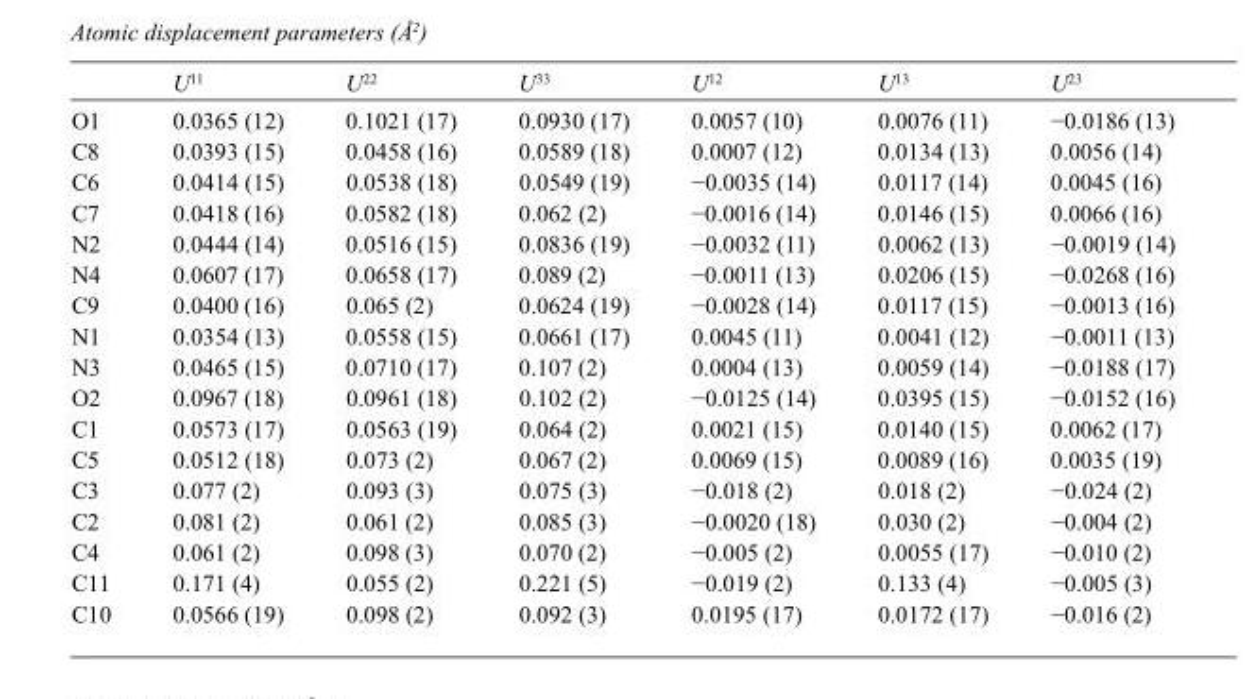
<table><thead><tr><td></td><td>U<sup>11</sup></td><td>U<sup>22</sup></td><td>U<sup>33</sup></td><td>U<sup>12</sup></td><td>U<sup>13</sup></td><td>U<sup>23</sup></td></tr></thead><tbody><tr><td>O1</td><td>0.0365 (12)</td><td>0.1021 (17)</td><td>0.0930 (17)</td><td>0.0057 (10)</td><td>0.0076 (11)</td><td>−0.0186 (13)</td></tr><tr><td>C8</td><td>0.0393 (15)</td><td>0.0458 (16)</td><td>0.0589 (18)</td><td>0.0007 (12)</td><td>0.0134 (13)</td><td>0.0056 (14)</td></tr><tr><td>C6</td><td>0.0414 (15)</td><td>0.0538 (18)</td><td>0.0549 (19)</td><td>−0.0035 (14)</td><td>0.0117 (14)</td><td>0.0045 (16)</td></tr><tr><td>C7</td><td>0.0418 (16)</td><td>0.0582 (18)</td><td>0.062 (2)</td><td>−0.0016 (14)</td><td>0.0146 (15)</td><td>0.0066 (16)</td></tr><tr><td>N2</td><td>0.0444 (14)</td><td>0.0516 (15)</td><td>0.0836 (19)</td><td>−0.0032 (11)</td><td>0.0062 (13)</td><td>−0.0019 (14)</td></tr><tr><td>N4</td><td>0.0607 (17)</td><td>0.0658 (17)</td><td>0.089 (2)</td><td>−0.0011 (13)</td><td>0.0206 (15)</td><td>−0.0268 (16)</td></tr><tr><td>C9</td><td>0.0400 (16)</td><td>0.065 (2)</td><td>0.0624 (19)</td><td>−0.0028 (14)</td><td>0.0117 (15)</td><td>−0.0013 (16)</td></tr><tr><td>N1</td><td>0.0354 (13)</td><td>0.0558 (15)</td><td>0.0661 (17)</td><td>0.0045 (11)</td><td>0.0041 (12)</td><td>−0.0011 (13)</td></tr><tr><td>N3</td><td>0.0465 (15)</td><td>0.0710 (17)</td><td>0.107 (2)</td><td>0.0004 (13)</td><td>0.0059 (14)</td><td>−0.0188 (17)</td></tr><tr><td>O2</td><td>0.0967 (18)</td><td>0.0961 (18)</td><td>0.102 (2)</td><td>−0.0125 (14)</td><td>0.0395 (15)</td><td>−0.0152 (16)</td></tr><tr><td>C1</td><td>0.0573 (17)</td><td>0.0563 (19)</td><td>0.064 (2)</td><td>0.0021 (15)</td><td>0.0140 (15)</td><td>0.0062 (17)</td></tr><tr><td>C5</td><td>0.0512 (18)</td><td>0.073 (2)</td><td>0.067 (2)</td><td>0.0069 (15)</td><td>0.0089 (16)</td><td>0.0035 (19)</td></tr><tr><td>C3</td><td>0.077 (2)</td><td>0.093 (3)</td><td>0.075 (3)</td><td>−0.018 (2)</td><td>0.018 (2)</td><td>−0.024 (2)</td></tr><tr><td>C2</td><td>0.081 (2)</td><td>0.061 (2)</td><td>0.085 (3)</td><td>−0.0020 (18)</td><td>0.030 (2)</td><td>−0.004 (2)</td></tr><tr><td>C4</td><td>0.061 (2)</td><td>0.098 (3)</td><td>0.070 (2)</td><td>−0.005 (2)</td><td>0.0055 (17)</td><td>−0.010 (2)</td></tr><tr><td>C11</td><td>0.171 (4)</td><td>0.055 (2)</td><td>0.221 (5)</td><td>−0.019 (2)</td><td>0.133 (4)</td><td>−0.005 (3)</td></tr><tr><td>C10</td><td>0.0566 (19)</td><td>0.098 (2)</td><td>0.092 (3)</td><td>0.0195 (17)</td><td>0.0172 (17)</td><td>−0.016 (2)</td></tr></tbody></table>